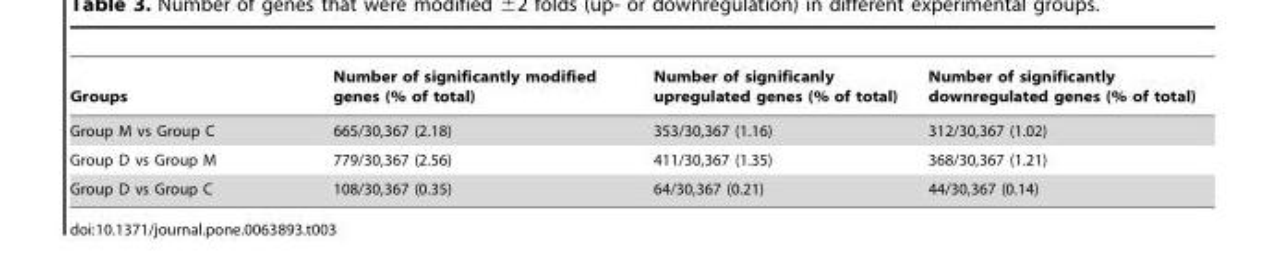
<table><thead><tr><td>Groups</td><td>Number of significantly modified genes (% of total)</td><td>Number of significanly upregulated genes (% of total)</td><td>Number of significantly downregulated genes (% of total)</td></tr></thead><tbody><tr><td>Group M vs Group C</td><td>665/30,367 (2.18)</td><td>353/30,367 (1.16)</td><td>312/30,367 (1.02)</td></tr><tr><td>Group D vs Group M</td><td>779/30,367 (2.56)</td><td>411/30,367 (1.35)</td><td>368/30,367 (1.21)</td></tr><tr><td>Group D vs Group C</td><td>108/30,367 (0.35)</td><td>64/30,367 (0.21)</td><td>44/30,367 (0.14)</td></tr></tbody></table>